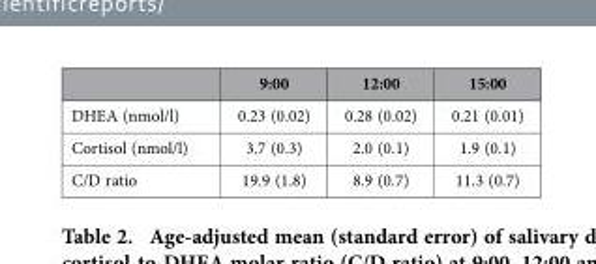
<table><thead><tr><td></td><td>9:00</td><td>12:00</td><td>15:00</td></tr></thead><tbody><tr><td>DHEA (nmol/l)</td><td>0.23 (0.02)</td><td>0.28 (0.02)</td><td>0.21 (0.01)</td></tr><tr><td>Cortisol (nmol/l)</td><td>3.7 (0.3)</td><td>2.0 (0.1)</td><td>1.9 (0.1)</td></tr><tr><td>C/D ratio</td><td>19.9 (1.8)</td><td>8.9 (0.7)</td><td>11.3 (0.7)</td></tr></tbody></table>